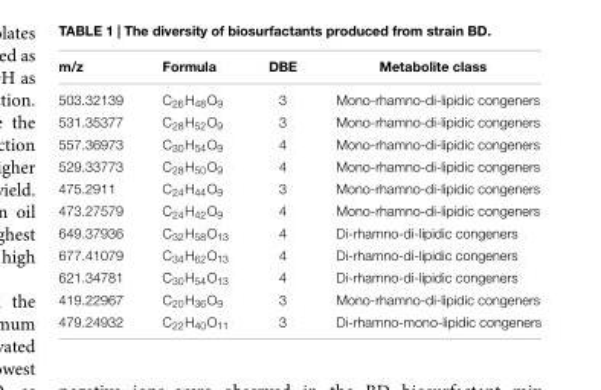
<table><thead><tr><td>m/z</td><td>Formula</td><td>DBE</td><td>Metabolite class</td></tr></thead><tbody><tr><td>503.32139</td><td>C<sub>26</sub>H<sub>48</sub>O<sub>9</sub></td><td>3</td><td>Mono-rhamno-di-lipidic congeners</td></tr><tr><td>531.35377</td><td>C<sub>28</sub>H<sub>52</sub>O<sub>9</sub></td><td>3</td><td>Mono-rhamno-di-lipidic congeners</td></tr><tr><td>557.36973</td><td>C<sub>30</sub>H<sub>54</sub>O<sub>9</sub></td><td>4</td><td>Mono-rhamno-di-lipidic congeners</td></tr><tr><td>529.33773</td><td>C<sub>28</sub>H<sub>50</sub>O<sub>9</sub></td><td>4</td><td>Mono-rhamno-di-lipidic congeners</td></tr><tr><td>475.2911</td><td>C<sub>24</sub>H<sub>44</sub>O<sub>9</sub></td><td>3</td><td>Mono-rhamno-di-lipidic congeners</td></tr><tr><td>473.27579</td><td>C<sub>24</sub>H<sub>42</sub>O<sub>9</sub></td><td>4</td><td>Mono-rhamno-di-lipidic congeners</td></tr><tr><td>649.37936</td><td>C<sub>32</sub>H<sub>58</sub>O<sub>13</sub></td><td>4</td><td>Di-rhamno-di-lipidic congeners</td></tr><tr><td>677.41079</td><td>C<sub>34</sub>H<sub>62</sub>O<sub>13</sub></td><td>4</td><td>Di-rhamno-di-lipidic congeners</td></tr><tr><td>621.34781</td><td>C<sub>30</sub>H<sub>54</sub>O<sub>13</sub></td><td>4</td><td>Di-rhamno-di-lipidic congeners</td></tr><tr><td>419.22967</td><td>C<sub>20</sub>H<sub>36</sub>O<sub>9</sub></td><td>3</td><td>Mono-rhamno-di-lipidic congeners</td></tr><tr><td>479.24932</td><td>C<sub>22</sub>H<sub>40</sub>O<sub>11</sub></td><td>3</td><td>Di-rhamno-mono-lipidic congeners</td></tr></tbody></table>